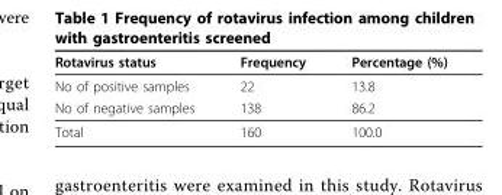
<table><thead><tr><td>Rotavirus status</td><td>Frequency</td><td>Percentage (%)</td></tr></thead><tbody><tr><td>No of positive samples</td><td>22</td><td>13.8</td></tr><tr><td>No of negative samples</td><td>138</td><td>86.2</td></tr><tr><td>Total</td><td>160</td><td>100.0</td></tr></tbody></table>